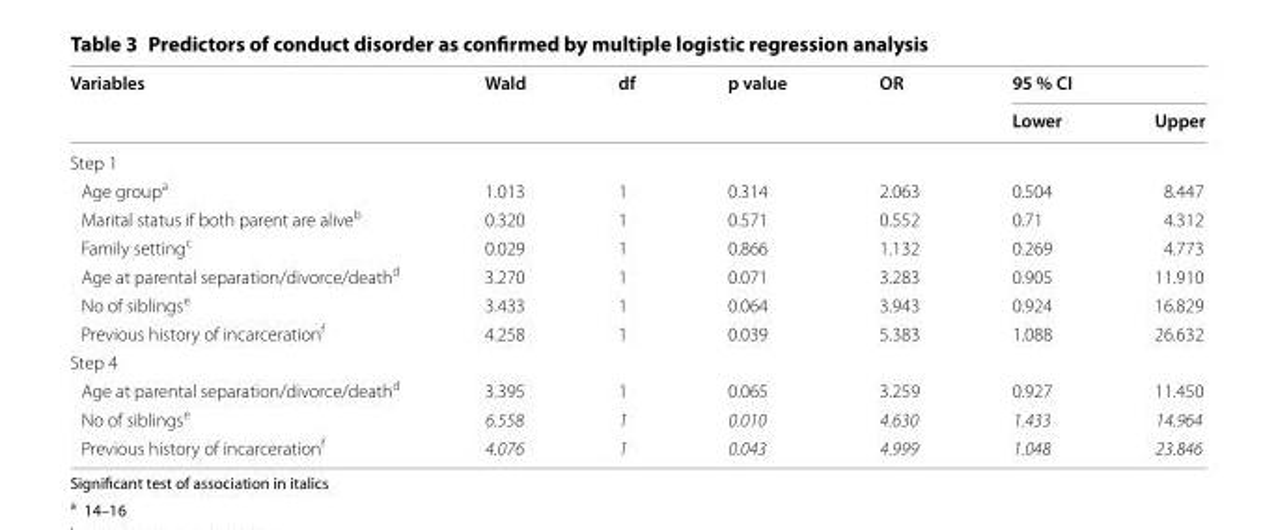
<table><thead><tr><td rowspan="2">Variables</td><td rowspan="2">Wald</td><td rowspan="2">df</td><td rowspan="2">p value</td><td rowspan="2">OR</td><td colspan="2">95 % CI</td></tr><tr><td>Lower</td><td>Upper</td></tr></thead><tbody><tr><td colspan="7">Step 1</td></tr><tr><td>Age group<sup>a</sup></td><td>1.013</td><td>1</td><td>0.314</td><td>2.063</td><td>0.504</td><td>8.447</td></tr><tr><td>Marital status if both parent are alive<sup>b</sup></td><td>0.320</td><td>1</td><td>0.571</td><td>0.552</td><td>0.71</td><td>4.312</td></tr><tr><td>Family setting<sup>c</sup></td><td>0.029</td><td>1</td><td>0.866</td><td>1.132</td><td>0.269</td><td>4.773</td></tr><tr><td>Age at parental separation/divorce/death<sup>d</sup></td><td>3.270</td><td>1</td><td>0.071</td><td>3.283</td><td>0.905</td><td>11.910</td></tr><tr><td>No of siblings<sup>e</sup></td><td>3.433</td><td>1</td><td>0.064</td><td>3.943</td><td>0.924</td><td>16.829</td></tr><tr><td>Previous history of incarceration<sup>f</sup></td><td>4.258</td><td>1</td><td>0.039</td><td>5.383</td><td>1.088</td><td>26.632</td></tr><tr><td colspan="7">Step 4</td></tr><tr><td>Age at parental separation/divorce/death<sup>d</sup></td><td>3.395</td><td>1</td><td>0.065</td><td>3.259</td><td>0.927</td><td>11.450</td></tr><tr><td>No of siblings<sup>e</sup></td><td>6.558</td><td>1</td><td>0.010</td><td>4.630</td><td>1.433</td><td>14.964</td></tr><tr><td>Previous history of incarceration<sup>f</sup></td><td>4.076</td><td>1</td><td>0.043</td><td>4.999</td><td>1.048</td><td>23.846</td></tr></tbody></table>